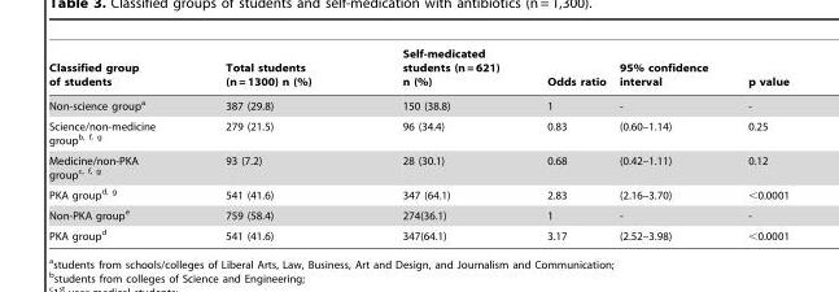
<table><thead><tr><td>Classified group of students</td><td>Total students (n = 1300) n (%)</td><td>Self-medicated students (n = 621) n (%)</td><td>Odds ratio</td><td>95% confidence interval</td><td>p value</td></tr></thead><tbody><tr><td>Non-science group<sup>a</sup></td><td>387 (29.8)</td><td>150 (38.8)</td><td>1</td><td>-</td><td>-</td></tr><tr><td>Science/non-medicine groupb, f, g</td><td>279 (21.5)</td><td>96 (34.4)</td><td>0.83</td><td>(0.60–1.14)</td><td>0.25</td></tr><tr><td>Medicine/non-PKA groupc, f, g</td><td>93 (7.2)</td><td>28 (30.1)</td><td>0.68</td><td>(0.42–1.11)</td><td>0.12</td></tr><tr><td>PKA groupd, g</td><td>541 (41.6)</td><td>347 (64.1)</td><td>2.83</td><td>(2.16–3.70)</td><td>&lt;0.0001</td></tr><tr><td>Non-PKA group<sup>e</sup></td><td>759 (58.4)</td><td>274(36.1)</td><td>1</td><td>-</td><td>-</td></tr><tr><td>PKA group<sup>d</sup></td><td>541 (41.6)</td><td>347(64.1)</td><td>3.17</td><td>(2.52–3.98)</td><td>&lt;0.0001</td></tr></tbody></table>